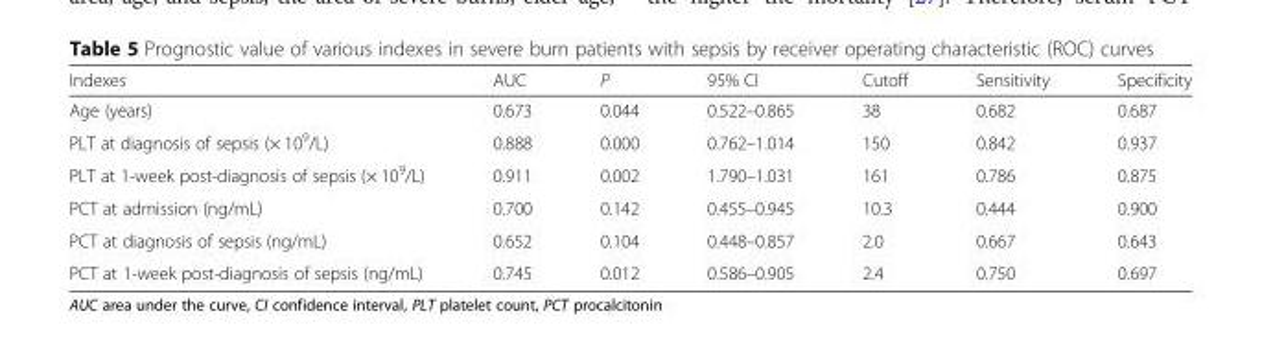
<table><thead><tr><td>Indexes</td><td>AUC</td><td>P</td><td>95% CI</td><td>Cutoff</td><td>Sensitivity</td><td>Specificity</td></tr></thead><tbody><tr><td>Age (years)</td><td>0.673</td><td>0.044</td><td>0.522–0.865</td><td>38</td><td>0.682</td><td>0.687</td></tr><tr><td>PLT at diagnosis of sepsis (× 10<sup>9</sup>/L)</td><td>0.888</td><td>0.000</td><td>0.762–1.014</td><td>150</td><td>0.842</td><td>0.937</td></tr><tr><td>PLT at 1-week post-diagnosis of sepsis (× 10<sup>9</sup>/L)</td><td>0.911</td><td>0.002</td><td>1.790–1.031</td><td>161</td><td>0.786</td><td>0.875</td></tr><tr><td>PCT at admission (ng/mL)</td><td>0.700</td><td>0.142</td><td>0.455–0.945</td><td>10.3</td><td>0.444</td><td>0.900</td></tr><tr><td>PCT at diagnosis of sepsis (ng/mL)</td><td>0.652</td><td>0.104</td><td>0.448–0.857</td><td>2.0</td><td>0.667</td><td>0.643</td></tr><tr><td>PCT at 1-week post-diagnosis of sepsis (ng/mL)</td><td>0.745</td><td>0.012</td><td>0.586–0.905</td><td>2.4</td><td>0.750</td><td>0.697</td></tr></tbody></table>